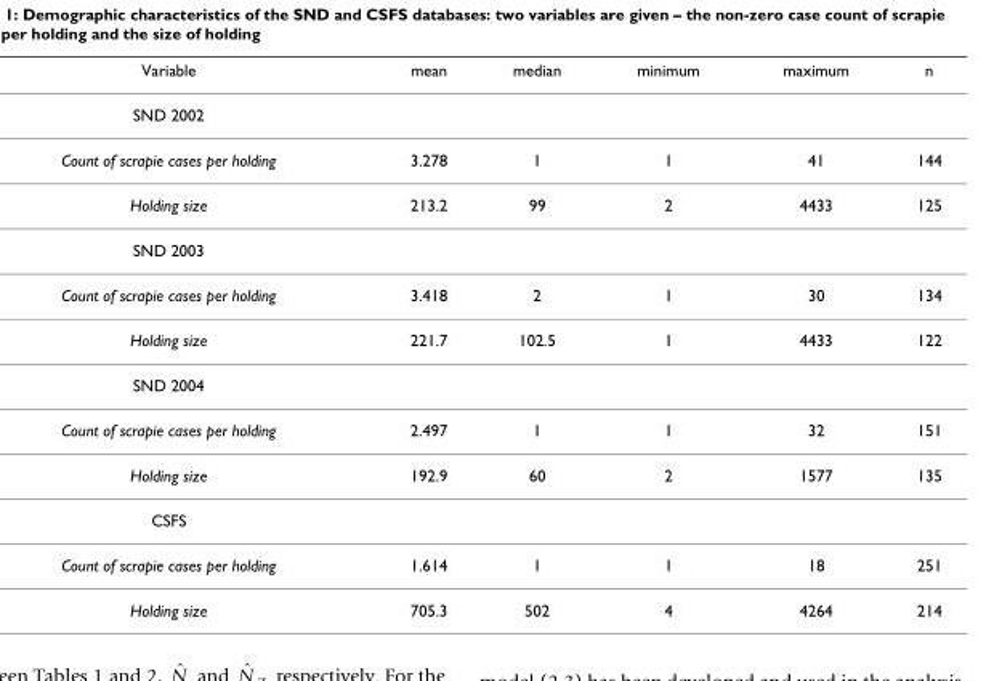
<table><thead><tr><td>Variable</td><td>mean</td><td>median</td><td>minimum</td><td>maximum</td><td>n</td></tr></thead><tbody><tr><td colspan="6">SND 2002</td></tr><tr><td>Count of scrapie cases per holding</td><td>3.278</td><td>1</td><td>1</td><td>41</td><td>144</td></tr><tr><td>Holding size</td><td>213.2</td><td>99</td><td>2</td><td>4433</td><td>125</td></tr><tr><td colspan="6">SND 2003</td></tr><tr><td>Count of scrapie cases per holding</td><td>3.418</td><td>2</td><td>1</td><td>30</td><td>134</td></tr><tr><td>Holding size</td><td>221.7</td><td>102.5</td><td>1</td><td>4433</td><td>122</td></tr><tr><td colspan="6">SND 2004</td></tr><tr><td>Count of scrapie cases per holding</td><td>2.497</td><td>1</td><td>1</td><td>32</td><td>151</td></tr><tr><td>Holding size</td><td>192.9</td><td>60</td><td>2</td><td>1577</td><td>135</td></tr><tr><td colspan="6">CSFS</td></tr><tr><td>Count of scrapie cases per holding</td><td>1.614</td><td>1</td><td>1</td><td>18</td><td>251</td></tr><tr><td>Holding size</td><td>705.3</td><td>502</td><td>4</td><td>4264</td><td>214</td></tr></tbody></table>